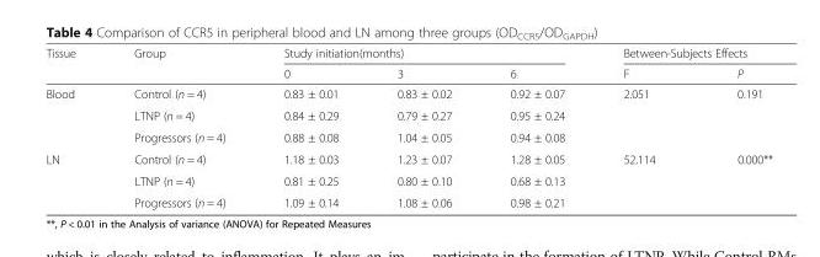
<table><thead><tr><td rowspan="2">Tissue</td><td rowspan="2">Group</td><td colspan="3">Study initiation(months)</td><td colspan="2">Between-Subjects Effects</td></tr><tr><td>0</td><td>3</td><td>6</td><td>F</td><td>P</td></tr></thead><tbody><tr><td rowspan="3">Blood</td><td>Control (n = 4)</td><td>0.83 ± 0.01</td><td>0.83 ± 0.02</td><td>0.92 ± 0.07</td><td rowspan="3">2.051</td><td rowspan="3">0.191</td></tr><tr><td>LTNP (n = 4)</td><td>0.84 ± 0.29</td><td>0.79 ± 0.27</td><td>0.95 ± 0.24</td></tr><tr><td>Progressors (n = 4)</td><td>0.88 ± 0.08</td><td>1.04 ± 0.05</td><td>0.94 ± 0.08</td></tr><tr><td rowspan="3">LN</td><td>Control (n = 4)</td><td>1.18 ± 0.03</td><td>1.23 ± 0.07</td><td>1.28 ± 0.05</td><td rowspan="3">52.114</td><td rowspan="3">0.000**</td></tr><tr><td>LTNP (n = 4)</td><td>0.81 ± 0.25</td><td>0.80 ± 0.10</td><td>0.68 ± 0.13</td></tr><tr><td>Progressors (n = 4)</td><td>1.09 ± 0.14</td><td>1.08 ± 0.06</td><td>0.98 ± 0.21</td></tr></tbody></table>